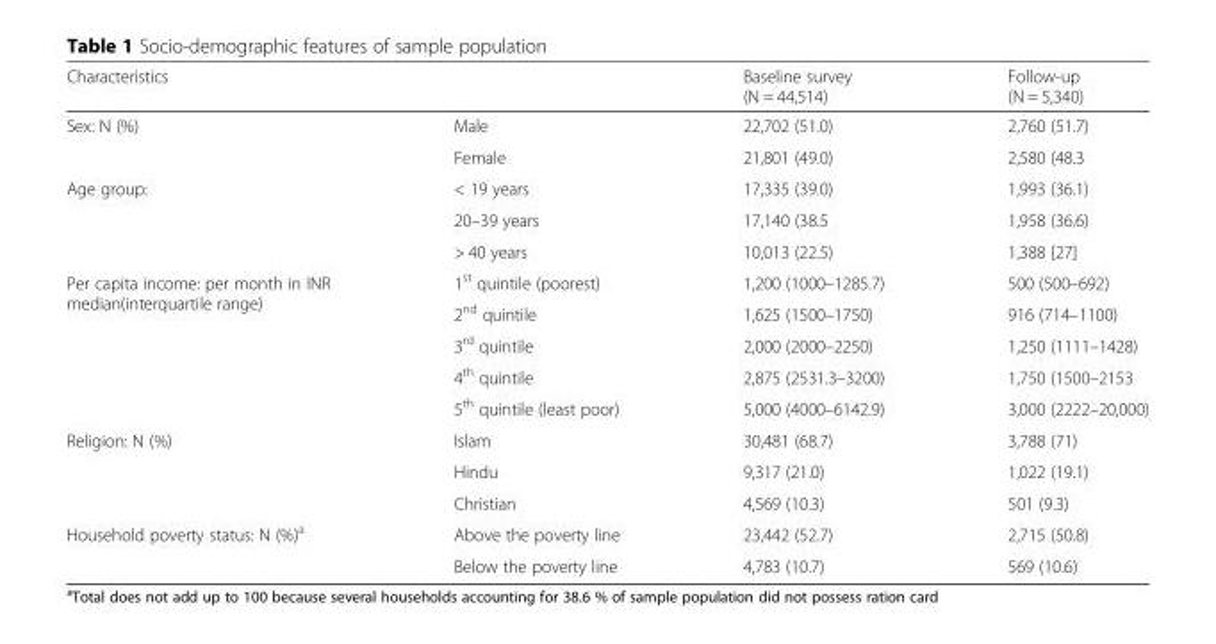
<table><thead><tr><td>Characteristics</td><td></td><td>Baseline survey (N = 44,514)</td><td>Follow-up (N = 5,340)</td></tr></thead><tbody><tr><td rowspan="2">Sex: N (%)</td><td>Male</td><td>22,702 (51.0)</td><td>2,760 (51.7)</td></tr><tr><td>Female</td><td>21,801 (49.0)</td><td>2,580 (48.3</td></tr><tr><td rowspan="3">Age group:</td><td>&lt; 19 years</td><td>17,335 (39.0)</td><td>1,993 (36.1)</td></tr><tr><td>20–39 years</td><td>17,140 (38.5</td><td>1,958 (36.6)</td></tr><tr><td>&gt; 40 years</td><td>10,013 (22.5)</td><td>1,388 [27]</td></tr><tr><td rowspan="5">Per capita income: per month in INR median(interquartile range)</td><td>1<sup>st</sup> quintile (poorest)</td><td>1,200 (1000–1285.7)</td><td>500 (500–692)</td></tr><tr><td>2<sup>nd</sup> quintile</td><td>1,625 (1500–1750)</td><td>916 (714–1100)</td></tr><tr><td>3<sup>rd</sup> quintile</td><td>2,000 (2000–2250)</td><td>1,250 (1111–1428)</td></tr><tr><td>4<sup>th</sup> quintile</td><td>2,875 (2531.3–3200)</td><td>1,750 (1500–2153</td></tr><tr><td>5<sup>th</sup> quintile (least poor)</td><td>5,000 (4000–6142.9)</td><td>3,000 (2222–20,000)</td></tr><tr><td rowspan="3">Religion: N (%)</td><td>Islam</td><td>30,481 (68.7)</td><td>3,788 (71)</td></tr><tr><td>Hindu</td><td>9,317 (21.0)</td><td>1,022 (19.1)</td></tr><tr><td>Christian</td><td>4,569 (10.3)</td><td>501 (9.3)</td></tr><tr><td rowspan="2">Household poverty status: N (%)<sup>a</sup></td><td>Above the poverty line</td><td>23,442 (52.7)</td><td>2,715 (50.8)</td></tr><tr><td>Below the poverty line</td><td>4,783 (10.7)</td><td>569 (10.6)</td></tr></tbody></table>